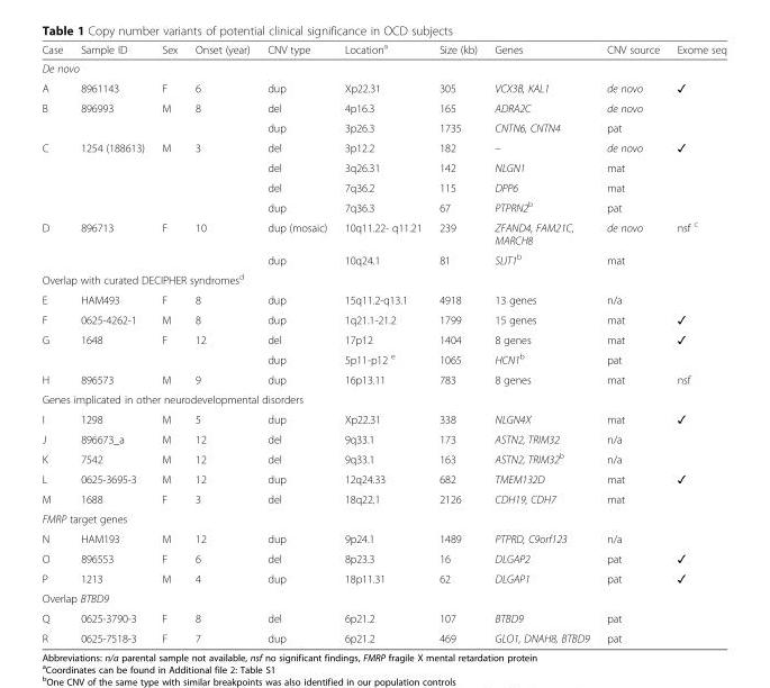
<table><thead><tr><td>Case</td><td>Sample ID</td><td>Sex</td><td>Onset (year)</td><td>CNV type</td><td>Location<sup>a</sup></td><td>Size (kb)</td><td>Genes</td><td>CNV source</td><td>Exome seq</td></tr></thead><tbody><tr><td colspan="10">De novo</td></tr><tr><td>A</td><td>8961143</td><td>F</td><td>6</td><td>dup</td><td>Xp22.31</td><td>305</td><td>VCX3B, KAL1</td><td>de novo</td><td>✓</td></tr><tr><td rowspan="2">B</td><td>896993</td><td>M</td><td>8</td><td>del</td><td>4p16.3</td><td>165</td><td>ADRA2C</td><td>de novo</td><td></td></tr><tr><td></td><td></td><td></td><td>dup</td><td>3p26.3</td><td>1735</td><td>CNTN6, CNTN4</td><td>pat</td><td></td></tr><tr><td rowspan="4">C</td><td>1254 (188613)</td><td>M</td><td>3</td><td>del</td><td>3p12.2</td><td>182</td><td>–</td><td>de novo</td><td>✓</td></tr><tr><td></td><td></td><td></td><td>del</td><td>3q26.31</td><td>142</td><td>NLGN1</td><td>mat</td><td></td></tr><tr><td></td><td></td><td></td><td>del</td><td>7q36.2</td><td>115</td><td>DPP6</td><td>mat</td><td></td></tr><tr><td></td><td></td><td></td><td>dup</td><td>7q36.3</td><td>67</td><td>PTPRN2<sup>b</sup></td><td>pat</td><td></td></tr><tr><td rowspan="2">D</td><td>896713</td><td>F</td><td>10</td><td>dup (mosaic)</td><td>10q11.22- q11.21</td><td>239</td><td>ZFAND4, FAM21C, MARCH8</td><td>de novo</td><td>nsf <sup>c</sup></td></tr><tr><td></td><td></td><td></td><td>dup</td><td>10q24.1</td><td>81</td><td>SLIT1<sup>b</sup></td><td>mat</td><td></td></tr><tr><td colspan="10">Overlap with curated DECIPHER syndromes<sup>d</sup></td></tr><tr><td>E</td><td>HAM493</td><td>F</td><td>8</td><td>dup</td><td>15q11.2-q13.1</td><td>4918</td><td>13 genes</td><td>n/a</td><td></td></tr><tr><td>F</td><td>0625-4262-1</td><td>M</td><td>8</td><td>dup</td><td>1q21.1-21.2</td><td>1799</td><td>15 genes</td><td>mat</td><td>✓</td></tr><tr><td rowspan="2">G</td><td>1648</td><td>F</td><td>12</td><td>del</td><td>17p12</td><td>1404</td><td>8 genes</td><td>mat</td><td>✓</td></tr><tr><td></td><td></td><td></td><td>dup</td><td>5p11-p12 <sup>e</sup></td><td>1065</td><td>HCN1<sup>b</sup></td><td>pat</td><td></td></tr><tr><td>H</td><td>896573</td><td>M</td><td>9</td><td>dup</td><td>16p13.11</td><td>783</td><td>8 genes</td><td>mat</td><td>nsf</td></tr><tr><td colspan="10">Genes implicated in other neurodevelopmental disorders</td></tr><tr><td>I</td><td>1298</td><td>M</td><td>5</td><td>dup</td><td>Xp22.31</td><td>338</td><td>NLGN4X</td><td>mat</td><td>✓</td></tr><tr><td>J</td><td>896673_a</td><td>M</td><td>12</td><td>del</td><td>9q33.1</td><td>173</td><td>ASTN2, TRIM32</td><td>n/a</td><td></td></tr><tr><td>K</td><td>7542</td><td>M</td><td>12</td><td>del</td><td>9q33.1</td><td>163</td><td>ASTN2, TRIM32<sup>b</sup></td><td>n/a</td><td></td></tr><tr><td>L</td><td>0625-3695-3</td><td>M</td><td>12</td><td>dup</td><td>12q24.33</td><td>682</td><td>TMEM132D</td><td>mat</td><td>✓</td></tr><tr><td>M</td><td>1688</td><td>F</td><td>3</td><td>del</td><td>18q22.1</td><td>2126</td><td>CDH19, CDH7</td><td>mat</td><td></td></tr><tr><td colspan="10">FMRP target genes</td></tr><tr><td>N</td><td>HAM193</td><td>M</td><td>12</td><td>dup</td><td>9p24.1</td><td>1489</td><td>PTPRD, C9orf123</td><td>n/a</td><td></td></tr><tr><td>O</td><td>896553</td><td>F</td><td>6</td><td>del</td><td>8p23.3</td><td>16</td><td>DLGAP2</td><td>pat</td><td>✓</td></tr><tr><td>P</td><td>1213</td><td>M</td><td>4</td><td>dup</td><td>18p11.31</td><td>62</td><td>DLGAP1</td><td>pat</td><td>✓</td></tr><tr><td colspan="10">Overlap BTBD9</td></tr><tr><td>Q</td><td>0625-3790-3</td><td>F</td><td>8</td><td>del</td><td>6p21.2</td><td>107</td><td>BTBD9</td><td>pat</td><td></td></tr><tr><td>R</td><td>0625-7518-3</td><td>F</td><td>7</td><td>dup</td><td>6p21.2</td><td>469</td><td>GLO1, DNAH8, BTBD9</td><td>pat</td><td></td></tr></tbody></table>